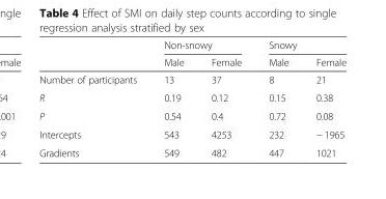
<table><thead><tr><td rowspan="2"></td><td colspan="2">Non-snowy</td><td colspan="2">Snowy</td></tr><tr><td>Male</td><td>Female</td><td>Male</td><td>Female</td></tr></thead><tbody><tr><td>Number of participants</td><td>13</td><td>37</td><td>8</td><td>21</td></tr><tr><td>R</td><td>0.19</td><td>0.12</td><td>0.15</td><td>0.38</td></tr><tr><td>P</td><td>0.54</td><td>0.4</td><td>0.72</td><td>0.08</td></tr><tr><td>Intercepts</td><td>543</td><td>4253</td><td>232</td><td>− 1965</td></tr><tr><td>Gradients</td><td>549</td><td>482</td><td>447</td><td>1021</td></tr></tbody></table>